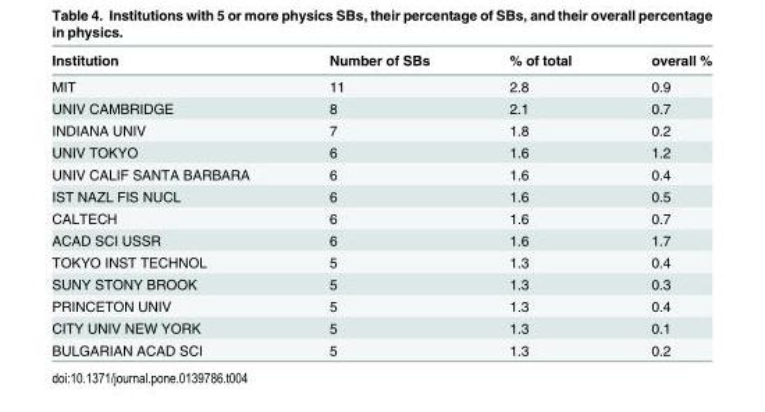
<table><thead><tr><td>Institution</td><td>Number of SBs</td><td>% of total</td><td>overall %</td></tr></thead><tbody><tr><td>MIT</td><td>11</td><td>2.8</td><td>0.9</td></tr><tr><td>UNIV CAMBRIDGE</td><td>8</td><td>2.1</td><td>0.7</td></tr><tr><td>INDIANA UNIV</td><td>7</td><td>1.8</td><td>0.2</td></tr><tr><td>UNIV TOKYO</td><td>6</td><td>1.6</td><td>1.2</td></tr><tr><td>UNIV CALIF SANTA BARBARA</td><td>6</td><td>1.6</td><td>0.4</td></tr><tr><td>IST NAZL FIS NUCL</td><td>6</td><td>1.6</td><td>0.5</td></tr><tr><td>CALTECH</td><td>6</td><td>1.6</td><td>0.7</td></tr><tr><td>ACAD SCI USSR</td><td>6</td><td>1.6</td><td>1.7</td></tr><tr><td>TOKYO INST TECHNOL</td><td>5</td><td>1.3</td><td>0.4</td></tr><tr><td>SUNY STONY BROOK</td><td>5</td><td>1.3</td><td>0.3</td></tr><tr><td>PRINCETON UNIV</td><td>5</td><td>1.3</td><td>0.4</td></tr><tr><td>CITY UNIV NEW YORK</td><td>5</td><td>1.3</td><td>0.1</td></tr><tr><td>BULGARIAN ACAD SCI</td><td>5</td><td>1.3</td><td>0.2</td></tr></tbody></table>